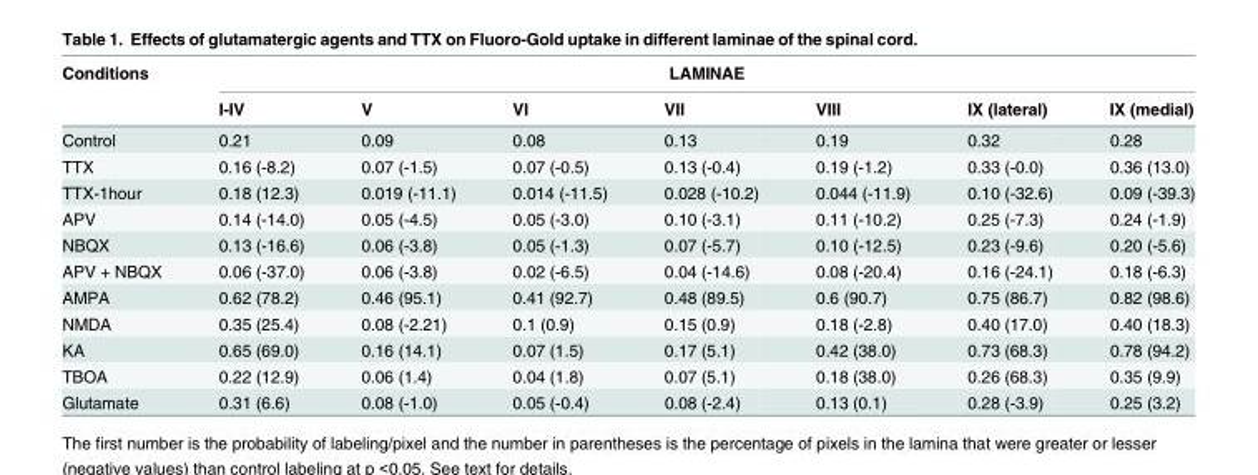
<table><thead><tr><td rowspan="2">Conditions</td><td colspan="7">LAMINAE</td></tr><tr><td>I-IV</td><td>V</td><td>VI</td><td>VII</td><td>VIII</td><td>IX (lateral)</td><td>IX (medial)</td></tr></thead><tbody><tr><td>Control</td><td>0.21</td><td>0.09</td><td>0.08</td><td>0.13</td><td>0.19</td><td>0.32</td><td>0.28</td></tr><tr><td>TTX</td><td>0.16 (-8.2)</td><td>0.07 (-1.5)</td><td>0.07 (-0.5)</td><td>0.13 (-0.4)</td><td>0.19 (-1.2)</td><td>0.33 (-0.0)</td><td>0.36 (13.0)</td></tr><tr><td>TTX-1hour</td><td>0.18 (12.3)</td><td>0.019 (-11.1)</td><td>0.014 (-11.5)</td><td>0.028 (-10.2)</td><td>0.044 (-11.9)</td><td>0.10 (-32.6)</td><td>0.09 (-39.3)</td></tr><tr><td>APV</td><td>0.14 (-14.0)</td><td>0.05 (-4.5)</td><td>0.05 (-3.0)</td><td>0.10 (-3.1)</td><td>0.11 (-10.2)</td><td>0.25 (-7.3)</td><td>0.24 (-1.9)</td></tr><tr><td>NBQX</td><td>0.13 (-16.6)</td><td>0.06 (-3.8)</td><td>0.05 (-1.3)</td><td>0.07 (-5.7)</td><td>0.10 (-12.5)</td><td>0.23 (-9.6)</td><td>0.20 (-5.6)</td></tr><tr><td>APV + NBQX</td><td>0.06 (-37.0)</td><td>0.06 (-3.8)</td><td>0.02 (-6.5)</td><td>0.04 (-14.6)</td><td>0.08 (-20.4)</td><td>0.16 (-24.1)</td><td>0.18 (-6.3)</td></tr><tr><td>AMPA</td><td>0.62 (78.2)</td><td>0.46 (95.1)</td><td>0.41 (92.7)</td><td>0.48 (89.5)</td><td>0.6 (90.7)</td><td>0.75 (86.7)</td><td>0.82 (98.6)</td></tr><tr><td>NMDA</td><td>0.35 (25.4)</td><td>0.08 (-2.21)</td><td>0.1 (0.9)</td><td>0.15 (0.9)</td><td>0.18 (-2.8)</td><td>0.40 (17.0)</td><td>0.40 (18.3)</td></tr><tr><td>KA</td><td>0.65 (69.0)</td><td>0.16 (14.1)</td><td>0.07 (1.5)</td><td>0.17 (5.1)</td><td>0.42 (38.0)</td><td>0.73 (68.3)</td><td>0.78 (94.2)</td></tr><tr><td>TBOA</td><td>0.22 (12.9)</td><td>0.06 (1.4)</td><td>0.04 (1.8)</td><td>0.07 (5.1)</td><td>0.18 (38.0)</td><td>0.26 (68.3)</td><td>0.35 (9.9)</td></tr><tr><td>Glutamate</td><td>0.31 (6.6)</td><td>0.08 (-1.0)</td><td>0.05 (-0.4)</td><td>0.08 (-2.4)</td><td>0.13 (0.1)</td><td>0.28 (-3.9)</td><td>0.25 (3.2)</td></tr></tbody></table>